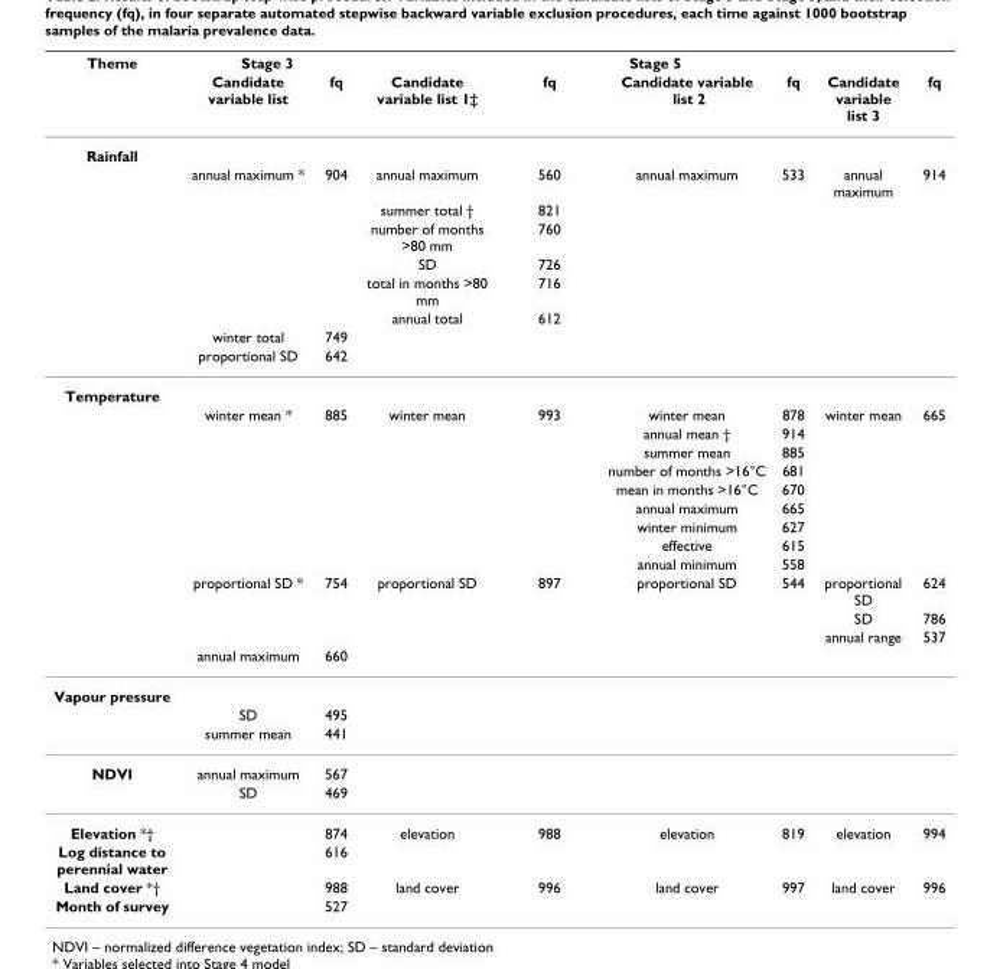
<table><thead><tr><td rowspan="2">Theme</td><td colspan="2">Stage 3</td><td colspan="6">Stage 5</td></tr><tr><td>Candidate variable list</td><td>fq</td><td>Candidate variable list 1‡</td><td>fq</td><td>Candidate variable list 2</td><td>fq</td><td>Candidate variable list 3</td><td>fq</td></tr></thead><tbody><tr><td colspan="9">Rainfall</td></tr><tr><td></td><td>annual maximum *</td><td>904</td><td>annual maximum</td><td>560</td><td>annual maximum</td><td>533</td><td>annual maximum</td><td>914</td></tr><tr><td></td><td></td><td></td><td>summer total †</td><td>821</td><td></td><td></td><td></td><td></td></tr><tr><td></td><td></td><td></td><td>number of months &gt;80 mm</td><td>760</td><td></td><td></td><td></td><td></td></tr><tr><td></td><td></td><td></td><td>SD</td><td>726</td><td></td><td></td><td></td><td></td></tr><tr><td></td><td></td><td></td><td>total in months &gt;80 mm</td><td>716</td><td></td><td></td><td></td><td></td></tr><tr><td></td><td></td><td></td><td>annual total</td><td>612</td><td></td><td></td><td></td><td></td></tr><tr><td></td><td>winter total</td><td>749</td><td></td><td></td><td></td><td></td><td></td><td></td></tr><tr><td></td><td>proportional SD</td><td>642</td><td></td><td></td><td></td><td></td><td></td><td></td></tr><tr><td colspan="9">Temperature</td></tr><tr><td></td><td>winter mean *</td><td>885</td><td>winter mean</td><td>993</td><td>winter mean</td><td>878</td><td>winter mean</td><td>665</td></tr><tr><td></td><td></td><td></td><td></td><td></td><td>annual mean †</td><td>914</td><td></td><td></td></tr><tr><td></td><td></td><td></td><td></td><td></td><td>summer mean</td><td>885</td><td></td><td></td></tr><tr><td></td><td></td><td></td><td></td><td></td><td>number of months &gt;16°C</td><td>681</td><td></td><td></td></tr><tr><td></td><td></td><td></td><td></td><td></td><td>mean in months &gt;16°C</td><td>670</td><td></td><td></td></tr><tr><td></td><td></td><td></td><td></td><td></td><td>annual maximum</td><td>665</td><td></td><td></td></tr><tr><td></td><td></td><td></td><td></td><td></td><td>winter minimum</td><td>627</td><td></td><td></td></tr><tr><td></td><td></td><td></td><td></td><td></td><td>effective</td><td>615</td><td></td><td></td></tr><tr><td></td><td></td><td></td><td></td><td></td><td>annual minimum</td><td>558</td><td></td><td></td></tr><tr><td></td><td>proportional SD *</td><td>754</td><td>proportional SD</td><td>897</td><td>proportional SD</td><td>544</td><td>proportional SD</td><td>624</td></tr><tr><td></td><td></td><td></td><td></td><td></td><td></td><td></td><td>SD</td><td>786</td></tr><tr><td></td><td></td><td></td><td></td><td></td><td></td><td></td><td>annual range</td><td>537</td></tr><tr><td></td><td>annual maximum</td><td>660</td><td></td><td></td><td></td><td></td><td></td><td></td></tr><tr><td colspan="9">Vapour pressure</td></tr><tr><td></td><td>SD</td><td>495</td><td></td><td></td><td></td><td></td><td></td><td></td></tr><tr><td></td><td>summer mean</td><td>441</td><td></td><td></td><td></td><td></td><td></td><td></td></tr><tr><td rowspan="2">NDVI</td><td>annual maximum</td><td>567</td><td></td><td></td><td></td><td></td><td></td><td></td></tr><tr><td>SD</td><td>469</td><td></td><td></td><td></td><td></td><td></td><td></td></tr><tr><td>Elevation *†</td><td></td><td>874</td><td>elevation</td><td>988</td><td>elevation</td><td>819</td><td>elevation</td><td>994</td></tr><tr><td>Log distance to perennial water</td><td></td><td>616</td><td></td><td></td><td></td><td></td><td></td><td></td></tr><tr><td>Land cover *†</td><td></td><td>988</td><td>land cover</td><td>996</td><td>land cover</td><td>997</td><td>land cover</td><td>996</td></tr><tr><td>Month of survey</td><td></td><td>527</td><td></td><td></td><td></td><td></td><td></td><td></td></tr></tbody></table>